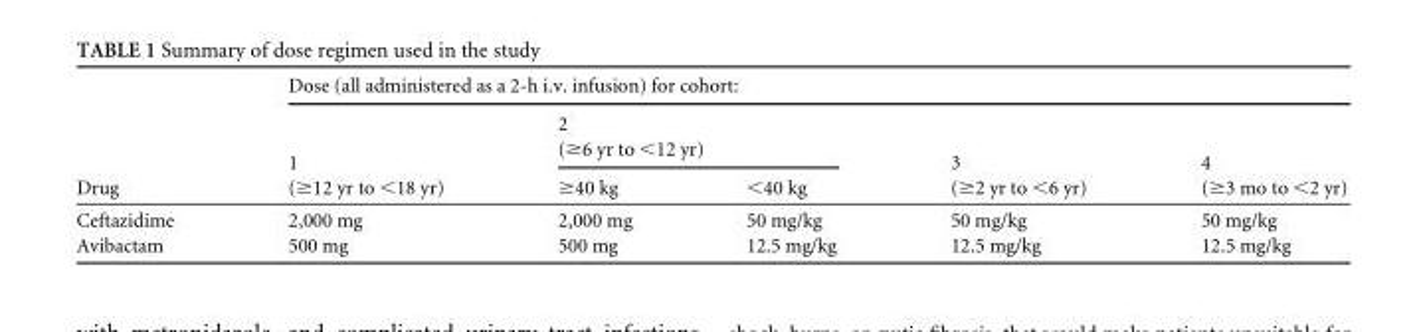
<table><thead><tr><td rowspan="3">Drug</td><td colspan="5">Dose (all administered as a 2-h i.v. infusion) for cohort:</td></tr><tr><td rowspan="2">1 (≥12 yr to &lt;18 yr)</td><td colspan="2">2 (≥6 yr to &lt;12 yr)</td><td rowspan="2">3 (≥2 yr to &lt;6 yr)</td><td rowspan="2">4 (≥3 mo to &lt;2 yr)</td></tr><tr><td>≥40 kg</td><td>&lt;40 kg</td></tr></thead><tbody><tr><td>Ceftazidime</td><td>2,000 mg</td><td>2,000 mg</td><td>50 mg/kg</td><td>50 mg/kg</td><td>50 mg/kg</td></tr><tr><td>Avibactam</td><td>500 mg</td><td>500 mg</td><td>12.5 mg/kg</td><td>12.5 mg/kg</td><td>12.5 mg/kg</td></tr></tbody></table>